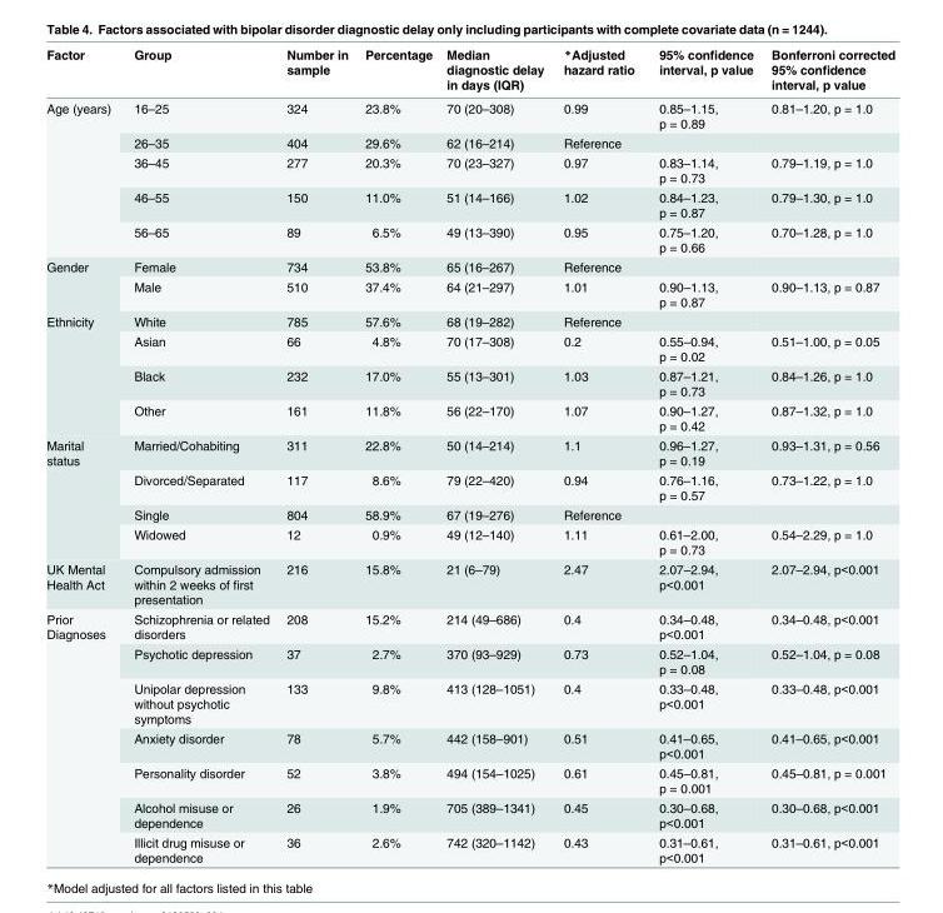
<table><thead><tr><td>Factor</td><td>Group</td><td>Number in sample</td><td>Percentage</td><td>Median diagnostic delay in days (IQR)</td><td>*Adjusted hazard ratio</td><td>95% confidence interval, p value</td><td>Bonferroni corrected 95% confidence interval, p value</td></tr></thead><tbody><tr><td rowspan="5">Age (years)</td><td>16–25</td><td>324</td><td>23.8%</td><td>70 (20–308)</td><td>0.99</td><td>0.85–1.15, p = 0.89</td><td>0.81–1.20, p = 1.0</td></tr><tr><td>26–35</td><td>404</td><td>29.6%</td><td>62 (16–214)</td><td>Reference</td><td></td><td></td></tr><tr><td>36–45</td><td>277</td><td>20.3%</td><td>70 (23–327)</td><td>0.97</td><td>0.83–1.14, p = 0.73</td><td>0.79–1.19, p = 1.0</td></tr><tr><td>46–55</td><td>150</td><td>11.0%</td><td>51 (14–166)</td><td>1.02</td><td>0.84–1.23, p = 0.87</td><td>0.79–1.30, p = 1.0</td></tr><tr><td>56–65</td><td>89</td><td>6.5%</td><td>49 (13–390)</td><td>0.95</td><td>0.75–1.20, p = 0.66</td><td>0.70–1.28, p = 1.0</td></tr><tr><td rowspan="2">Gender</td><td>Female</td><td>734</td><td>53.8%</td><td>65 (16–267)</td><td>Reference</td><td></td><td></td></tr><tr><td>Male</td><td>510</td><td>37.4%</td><td>64 (21–297)</td><td>1.01</td><td>0.90–1.13, p = 0.87</td><td>0.90–1.13, p = 0.87</td></tr><tr><td rowspan="4">Ethnicity</td><td>White</td><td>785</td><td>57.6%</td><td>68 (19–282)</td><td>Reference</td><td></td><td></td></tr><tr><td>Asian</td><td>66</td><td>4.8%</td><td>70 (17–308)</td><td>0.2</td><td>0.55–0.94, p = 0.02</td><td>0.51–1.00, p = 0.05</td></tr><tr><td>Black</td><td>232</td><td>17.0%</td><td>55 (13–301)</td><td>1.03</td><td>0.87–1.21, p = 0.73</td><td>0.84–1.26, p = 1.0</td></tr><tr><td>Other</td><td>161</td><td>11.8%</td><td>56 (22–170)</td><td>1.07</td><td>0.90–1.27, p = 0.42</td><td>0.87–1.32, p = 1.0</td></tr><tr><td rowspan="4">Marital status</td><td>Married/Cohabiting</td><td>311</td><td>22.8%</td><td>50 (14–214)</td><td>1.1</td><td>0.96–1.27, p = 0.19</td><td>0.93–1.31, p = 0.56</td></tr><tr><td>Divorced/Separated</td><td>117</td><td>8.6%</td><td>79 (22–420)</td><td>0.94</td><td>0.76–1.16, p = 0.57</td><td>0.73–1.22, p = 1.0</td></tr><tr><td>Single</td><td>804</td><td>58.9%</td><td>67 (19–276)</td><td>Reference</td><td></td><td></td></tr><tr><td>Widowed</td><td>12</td><td>0.9%</td><td>49 (12–140)</td><td>1.11</td><td>0.61–2.00, p = 0.73</td><td>0.54–2.29, p = 1.0</td></tr><tr><td>UK Mental Health Act</td><td>Compulsory admission within 2 weeks of first presentation</td><td>216</td><td>15.8%</td><td>21 (6–79)</td><td>2.47</td><td>2.07–2.94, p&lt;0.001</td><td>2.07–2.94, p&lt;0.001</td></tr><tr><td rowspan="7">Prior Diagnoses</td><td>Schizophrenia or related disorders</td><td>208</td><td>15.2%</td><td>214 (49–686)</td><td>0.4</td><td>0.34–0.48, p&lt;0.001</td><td>0.34–0.48, p&lt;0.001</td></tr><tr><td>Psychotic depression</td><td>37</td><td>2.7%</td><td>370 (93–929)</td><td>0.73</td><td>0.52–1.04, p = 0.08</td><td>0.52–1.04, p = 0.08</td></tr><tr><td>Unipolar depression without psychotic symptoms</td><td>133</td><td>9.8%</td><td>413 (128–1051)</td><td>0.4</td><td>0.33–0.48, p&lt;0.001</td><td>0.33–0.48, p&lt;0.001</td></tr><tr><td>Anxiety disorder</td><td>78</td><td>5.7%</td><td>442 (158–901)</td><td>0.51</td><td>0.41–0.65, p&lt;0.001</td><td>0.41–0.65, p&lt;0.001</td></tr><tr><td>Personality disorder</td><td>52</td><td>3.8%</td><td>494 (154–1025)</td><td>0.61</td><td>0.45–0.81, p = 0.001</td><td>0.45–0.81, p = 0.001</td></tr><tr><td>Alcohol misuse or dependence</td><td>26</td><td>1.9%</td><td>705 (389–1341)</td><td>0.45</td><td>0.30–0.68, p&lt;0.001</td><td>0.30–0.68, p&lt;0.001</td></tr><tr><td>Illicit drug misuse or dependence</td><td>36</td><td>2.6%</td><td>742 (320–1142)</td><td>0.43</td><td>0.31–0.61, p&lt;0.001</td><td>0.31–0.61, p&lt;0.001</td></tr></tbody></table>